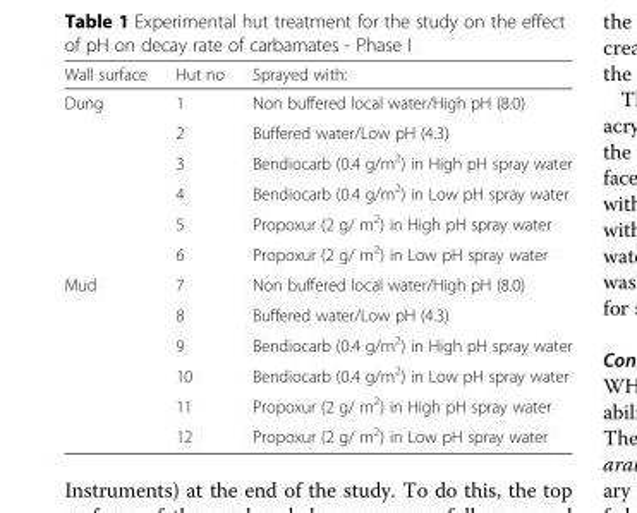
<table><thead><tr><td>Wall surface</td><td>Hut no</td><td>Sprayed with:</td></tr></thead><tbody><tr><td rowspan="6">Dung</td><td>1</td><td>Non buffered local water/High pH (8.0)</td></tr><tr><td>2</td><td>Buffered water/Low pH (4.3)</td></tr><tr><td>3</td><td>Bendiocarb (0.4 g/m<sup>2</sup>) in High pH spray water</td></tr><tr><td>4</td><td>Bendiocarb (0.4 g/m<sup>2</sup>) in Low pH spray water</td></tr><tr><td>5</td><td>Propoxur (2 g/ m<sup>2</sup>) in High pH spray water</td></tr><tr><td>6</td><td>Propoxur (2 g/ m<sup>2</sup>) in Low pH spray water</td></tr><tr><td rowspan="6">Mud</td><td>7</td><td>Non buffered local water/High pH (8.0)</td></tr><tr><td>8</td><td>Buffered water/Low pH (4.3)</td></tr><tr><td>9</td><td>Bendiocarb (0.4 g/m<sup>2</sup>) in High pH spray water</td></tr><tr><td>10</td><td>Bendiocarb (0.4 g/m<sup>2</sup>) in Low pH spray water</td></tr><tr><td>11</td><td>Propoxur (2 g/ m<sup>2</sup>) in High pH spray water</td></tr><tr><td>12</td><td>Propoxur (2 g/ m<sup>2</sup>) in Low pH spray water</td></tr></tbody></table>